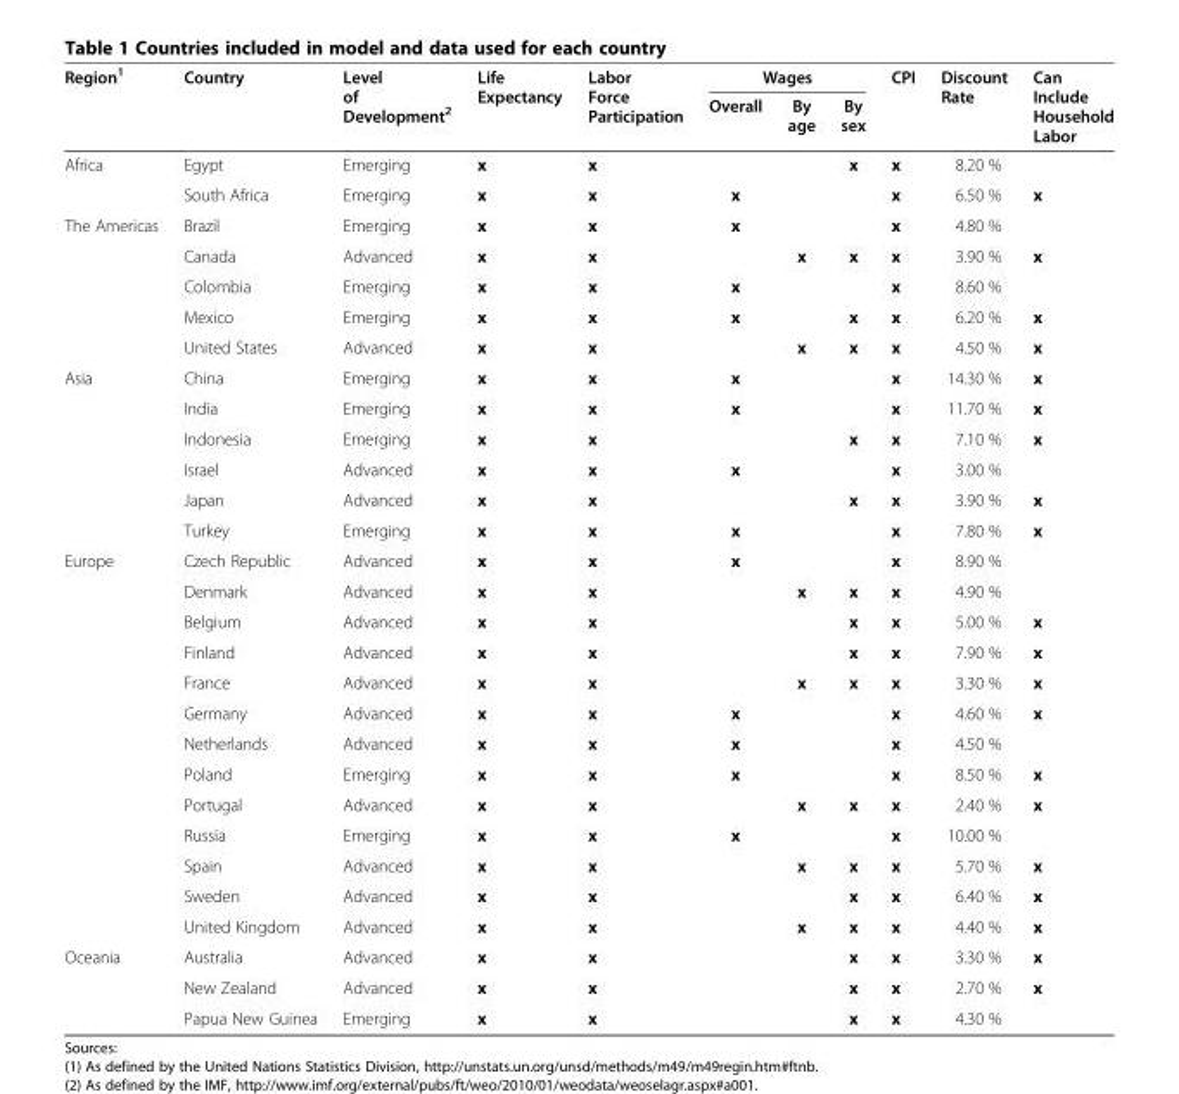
<table><thead><tr><td rowspan="2">Region<sup>1</sup></td><td rowspan="2">Country</td><td rowspan="2">Level of Development<sup>2</sup></td><td rowspan="2">Life Expectancy</td><td rowspan="2">Labor Force Participation</td><td colspan="3">Wages</td><td rowspan="2">CPI</td><td rowspan="2">Discount Rate</td><td rowspan="2">Can Include Household Labor</td></tr><tr><td>Overall</td><td>By age</td><td>By sex</td></tr></thead><tbody><tr><td rowspan="2">Africa</td><td>Egypt</td><td>Emerging</td><td>x</td><td>x</td><td></td><td></td><td>x</td><td>x</td><td>8.20 %</td><td></td></tr><tr><td>South Africa</td><td>Emerging</td><td>x</td><td>x</td><td>x</td><td></td><td></td><td>x</td><td>6.50 %</td><td>x</td></tr><tr><td rowspan="5">The Americas</td><td>Brazil</td><td>Emerging</td><td>x</td><td>x</td><td>x</td><td></td><td></td><td>x</td><td>4.80 %</td><td></td></tr><tr><td>Canada</td><td>Advanced</td><td>x</td><td>x</td><td></td><td>x</td><td>x</td><td>x</td><td>3.90 %</td><td>x</td></tr><tr><td>Colombia</td><td>Emerging</td><td>x</td><td>x</td><td>x</td><td></td><td></td><td>x</td><td>8.60 %</td><td></td></tr><tr><td>Mexico</td><td>Emerging</td><td>x</td><td>x</td><td>x</td><td></td><td>x</td><td>x</td><td>6.20 %</td><td>x</td></tr><tr><td>United States</td><td>Advanced</td><td>x</td><td>x</td><td></td><td>x</td><td>x</td><td>x</td><td>4.50 %</td><td>x</td></tr><tr><td rowspan="6">Asia</td><td>China</td><td>Emerging</td><td>x</td><td>x</td><td>x</td><td></td><td></td><td>x</td><td>14.30 %</td><td>x</td></tr><tr><td>India</td><td>Emerging</td><td>x</td><td>x</td><td>x</td><td></td><td></td><td>x</td><td>11.70 %</td><td>x</td></tr><tr><td>Indonesia</td><td>Emerging</td><td>x</td><td>x</td><td></td><td></td><td>x</td><td>x</td><td>7.10 %</td><td>x</td></tr><tr><td>Israel</td><td>Advanced</td><td>x</td><td>x</td><td>x</td><td></td><td></td><td>x</td><td>3.00 %</td><td></td></tr><tr><td>Japan</td><td>Advanced</td><td>x</td><td>x</td><td></td><td></td><td>x</td><td>x</td><td>3.90 %</td><td>x</td></tr><tr><td>Turkey</td><td>Emerging</td><td>x</td><td>x</td><td>x</td><td></td><td></td><td>x</td><td>7.80 %</td><td>x</td></tr><tr><td rowspan="13">Europe</td><td>Czech Republic</td><td>Advanced</td><td>x</td><td>x</td><td>x</td><td></td><td></td><td>x</td><td>8.90 %</td><td></td></tr><tr><td>Denmark</td><td>Advanced</td><td>x</td><td>x</td><td></td><td>x</td><td>x</td><td>x</td><td>4.90 %</td><td></td></tr><tr><td>Belgium</td><td>Advanced</td><td>x</td><td>x</td><td></td><td></td><td>x</td><td>x</td><td>5.00 %</td><td>x</td></tr><tr><td>Finland</td><td>Advanced</td><td>x</td><td>x</td><td></td><td></td><td>x</td><td>x</td><td>7.90 %</td><td>x</td></tr><tr><td>France</td><td>Advanced</td><td>x</td><td>x</td><td></td><td>x</td><td>x</td><td>x</td><td>3.30 %</td><td>x</td></tr><tr><td>Germany</td><td>Advanced</td><td>x</td><td>x</td><td>x</td><td></td><td></td><td>x</td><td>4.60 %</td><td>x</td></tr><tr><td>Netherlands</td><td>Advanced</td><td>x</td><td>x</td><td>x</td><td></td><td></td><td>x</td><td>4.50 %</td><td></td></tr><tr><td>Poland</td><td>Emerging</td><td>x</td><td>x</td><td>x</td><td></td><td></td><td>x</td><td>8.50 %</td><td>x</td></tr><tr><td>Portugal</td><td>Advanced</td><td>x</td><td>x</td><td></td><td>x</td><td>x</td><td>x</td><td>2.40 %</td><td>x</td></tr><tr><td>Russia</td><td>Emerging</td><td>x</td><td>x</td><td>x</td><td></td><td></td><td>x</td><td>10.00 %</td><td></td></tr><tr><td>Spain</td><td>Advanced</td><td>x</td><td>x</td><td></td><td>x</td><td>x</td><td>x</td><td>5.70 %</td><td>x</td></tr><tr><td>Sweden</td><td>Advanced</td><td>x</td><td>x</td><td></td><td></td><td>x</td><td>x</td><td>6.40 %</td><td>x</td></tr><tr><td>United Kingdom</td><td>Advanced</td><td>x</td><td>x</td><td></td><td>x</td><td>x</td><td>x</td><td>4.40 %</td><td>x</td></tr><tr><td rowspan="3">Oceania</td><td>Australia</td><td>Advanced</td><td>x</td><td>x</td><td></td><td></td><td>x</td><td>x</td><td>3.30 %</td><td>x</td></tr><tr><td>New Zealand</td><td>Advanced</td><td>x</td><td>x</td><td></td><td></td><td>x</td><td>x</td><td>2.70 %</td><td>x</td></tr><tr><td>Papua New Guinea</td><td>Emerging</td><td>x</td><td>x</td><td></td><td></td><td>x</td><td>x</td><td>4.30 %</td><td></td></tr></tbody></table>